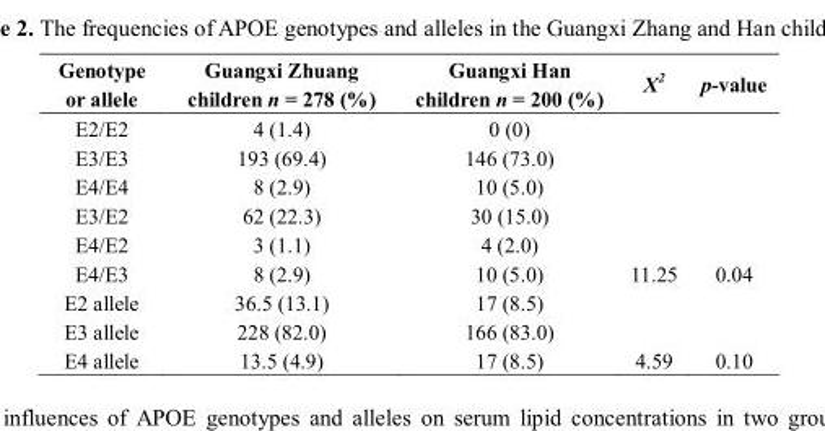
<table><thead><tr><td>Genotype or allele</td><td>Guangxi Zhuang children n = 278 (%)</td><td>Guangxi Han children n = 200 (%)</td><td>X<sup>2</sup></td><td>p-value</td></tr></thead><tbody><tr><td>E2/E2</td><td>4 (1.4)</td><td>0 (0)</td><td></td><td></td></tr><tr><td>E3/E3</td><td>193 (69.4)</td><td>146 (73.0)</td><td></td><td></td></tr><tr><td>E4/E4</td><td>8 (2.9)</td><td>10 (5.0)</td><td></td><td></td></tr><tr><td>E3/E2</td><td>62 (22.3)</td><td>30 (15.0)</td><td></td><td></td></tr><tr><td>E4/E2</td><td>3 (1.1)</td><td>4 (2.0)</td><td></td><td></td></tr><tr><td>E4/E3</td><td>8 (2.9)</td><td>10 (5.0)</td><td>11.25</td><td>0.04</td></tr><tr><td>E2 allele</td><td>36.5 (13.1)</td><td>17 (8.5)</td><td></td><td></td></tr><tr><td>E3 allele</td><td>228 (82.0)</td><td>166 (83.0)</td><td></td><td></td></tr><tr><td>E4 allele</td><td>13.5 (4.9)</td><td>17 (8.5)</td><td>4.59</td><td>0.10</td></tr></tbody></table>